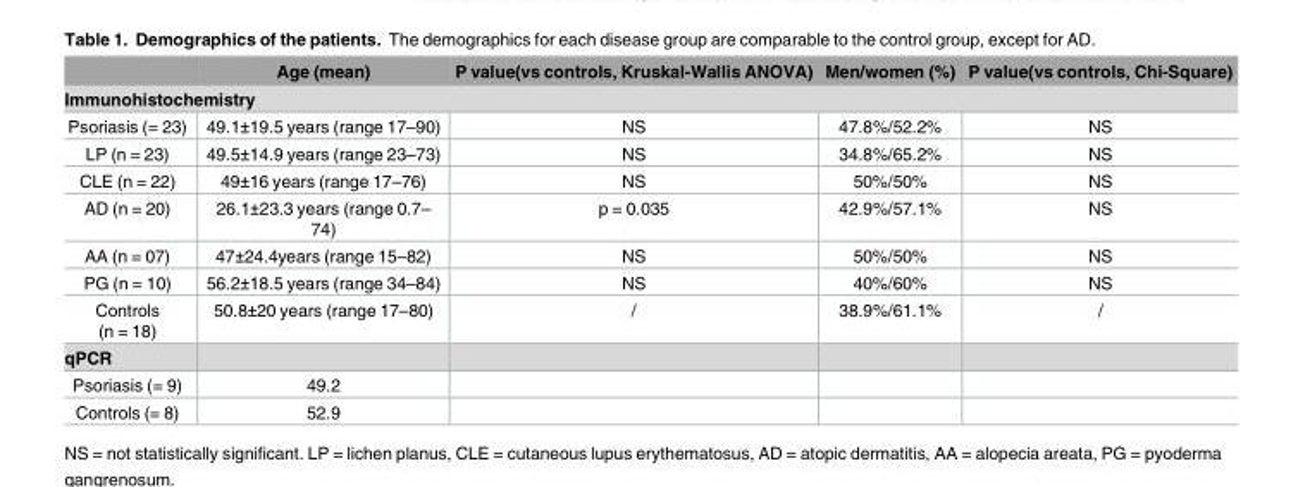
<table><thead><tr><td></td><td>Age (mean)</td><td>P value(vs controls, Kruskal-Wallis ANOVA)</td><td>Men/women (%)</td><td>P value(vs controls, Chi-Square)</td></tr></thead><tbody><tr><td colspan="5">Immunohistochemistry</td></tr><tr><td>Psoriasis (= 23)</td><td>49.1±19.5 years (range 17–90)</td><td>NS</td><td>47.8%/52.2%</td><td>NS</td></tr><tr><td>LP (n = 23)</td><td>49.5±14.9 years (range 23–73)</td><td>NS</td><td>34.8%/65.2%</td><td>NS</td></tr><tr><td>CLE (n = 22)</td><td>49±16 years (range 17–76)</td><td>NS</td><td>50%/50%</td><td>NS</td></tr><tr><td>AD (n = 20)</td><td>26.1±23.3 years (range 0.7– 74)</td><td>p = 0.035</td><td>42.9%/57.1%</td><td>NS</td></tr><tr><td>AA (n = 07)</td><td>47±24.4years (range 15–82)</td><td>NS</td><td>50%/50%</td><td>NS</td></tr><tr><td>PG (n = 10)</td><td>56.2±18.5 years (range 34–84)</td><td>NS</td><td>40%/60%</td><td>NS</td></tr><tr><td>Controls (n = 18)</td><td>50.8±20 years (range 17–80)</td><td>/</td><td>38.9%/61.1%</td><td>/</td></tr><tr><td colspan="5">qPCR</td></tr><tr><td>Psoriasis (= 9)</td><td>49.2</td><td></td><td></td><td></td></tr><tr><td>Controls (= 8)</td><td>52.9</td><td></td><td></td><td></td></tr></tbody></table>